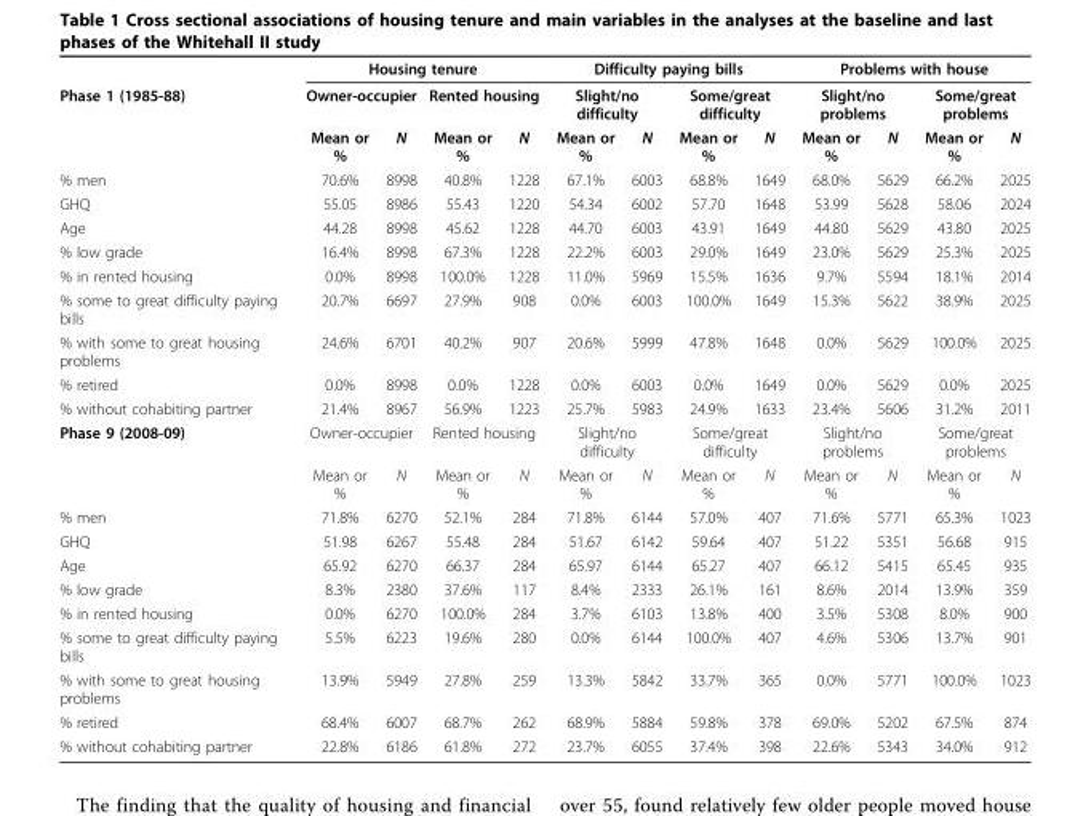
<table><thead><tr><td rowspan="3">Phase 1 (1985-88)</td><td colspan="4">Housing tenure</td><td colspan="4">Difficulty paying bills</td><td colspan="4">Problems with house</td></tr><tr><td colspan="2">Owner-occupier</td><td colspan="2">Rented housing</td><td colspan="2">Slight/no difficulty</td><td colspan="2">Some/great difficulty</td><td colspan="2">Slight/no problems</td><td colspan="2">Some/great problems</td></tr><tr><td>Mean or %</td><td>N</td><td>Mean or %</td><td>N</td><td>Mean or %</td><td>N</td><td>Mean or %</td><td>N</td><td>Mean or %</td><td>N</td><td>Mean or %</td><td>N</td></tr></thead><tbody><tr><td>% men</td><td>70.6%</td><td>8998</td><td>40.8%</td><td>1228</td><td>67.1%</td><td>6003</td><td>68.8%</td><td>1649</td><td>68.0%</td><td>5629</td><td>66.2%</td><td>2025</td></tr><tr><td>GHQ</td><td>55.05</td><td>8986</td><td>55.43</td><td>1220</td><td>54.34</td><td>6002</td><td>57.70</td><td>1648</td><td>53.99</td><td>5628</td><td>58.06</td><td>2024</td></tr><tr><td>Age</td><td>44.28</td><td>8998</td><td>45.62</td><td>1228</td><td>44.70</td><td>6003</td><td>43.91</td><td>1649</td><td>44.80</td><td>5629</td><td>43.80</td><td>2025</td></tr><tr><td>% low grade</td><td>16.4%</td><td>8998</td><td>67.3%</td><td>1228</td><td>22.2%</td><td>6003</td><td>29.0%</td><td>1649</td><td>23.0%</td><td>5629</td><td>25.3%</td><td>2025</td></tr><tr><td>% in rented housing</td><td>0.0%</td><td>8998</td><td>100.0%</td><td>1228</td><td>11.0%</td><td>5969</td><td>15.5%</td><td>1636</td><td>9.7%</td><td>5594</td><td>18.1%</td><td>2014</td></tr><tr><td>% some to great difficulty paying bills</td><td>20.7%</td><td>6697</td><td>27.9%</td><td>908</td><td>0.0%</td><td>6003</td><td>100.0%</td><td>1649</td><td>15.3%</td><td>5622</td><td>38.9%</td><td>2025</td></tr><tr><td>% with some to great housing problems</td><td>24.6%</td><td>6701</td><td>40.2%</td><td>907</td><td>20.6%</td><td>5999</td><td>47.8%</td><td>1648</td><td>0.0%</td><td>5629</td><td>100.0%</td><td>2025</td></tr><tr><td>% retired</td><td>0.0%</td><td>8998</td><td>0.0%</td><td>1228</td><td>0.0%</td><td>6003</td><td>0.0%</td><td>1649</td><td>0.0%</td><td>5629</td><td>0.0%</td><td>2025</td></tr><tr><td>% without cohabiting partner</td><td>21.4%</td><td>8967</td><td>56.9%</td><td>1223</td><td>25.7%</td><td>5983</td><td>24.9%</td><td>1633</td><td>23.4%</td><td>5606</td><td>31.2%</td><td>2011</td></tr><tr><td rowspan="2">Phase 9 (2008-09)</td><td colspan="2">Owner-occupier</td><td colspan="2">Rented housing</td><td colspan="2">Slight/no difficulty</td><td colspan="2">Some/great difficulty</td><td colspan="2">Slight/no problems</td><td colspan="2">Some/great problems</td></tr><tr><td>Mean or %</td><td>N</td><td>Mean or %</td><td>N</td><td>Mean or %</td><td>N</td><td>Mean or %</td><td>N</td><td>Mean or %</td><td>N</td><td>Mean or %</td><td>N</td></tr><tr><td>% men</td><td>71.8%</td><td>6270</td><td>52.1%</td><td>284</td><td>71.8%</td><td>6144</td><td>57.0%</td><td>407</td><td>71.6%</td><td>5771</td><td>65.3%</td><td>1023</td></tr><tr><td>GHQ</td><td>51.98</td><td>6267</td><td>55.48</td><td>284</td><td>51.67</td><td>6142</td><td>59.64</td><td>407</td><td>51.22</td><td>5351</td><td>56.68</td><td>915</td></tr><tr><td>Age</td><td>65.92</td><td>6270</td><td>66.37</td><td>284</td><td>65.97</td><td>6144</td><td>65.27</td><td>407</td><td>66.12</td><td>5415</td><td>65.45</td><td>935</td></tr><tr><td>% low grade</td><td>8.3%</td><td>2380</td><td>37.6%</td><td>117</td><td>8.4%</td><td>2333</td><td>26.1%</td><td>161</td><td>8.6%</td><td>2014</td><td>13.9%</td><td>359</td></tr><tr><td>% in rented housing</td><td>0.0%</td><td>6270</td><td>100.0%</td><td>284</td><td>3.7%</td><td>6103</td><td>13.8%</td><td>400</td><td>3.5%</td><td>5308</td><td>8.0%</td><td>900</td></tr><tr><td>% some to great difficulty paying bills</td><td>5.5%</td><td>6223</td><td>19.6%</td><td>280</td><td>0.0%</td><td>6144</td><td>100.0%</td><td>407</td><td>4.6%</td><td>5306</td><td>13.7%</td><td>901</td></tr><tr><td>% with some to great housing problems</td><td>13.9%</td><td>5949</td><td>27.8%</td><td>259</td><td>13.3%</td><td>5842</td><td>33.7%</td><td>365</td><td>0.0%</td><td>5771</td><td>100.0%</td><td>1023</td></tr><tr><td>% retired</td><td>68.4%</td><td>6007</td><td>68.7%</td><td>262</td><td>68.9%</td><td>5884</td><td>59.8%</td><td>378</td><td>69.0%</td><td>5202</td><td>67.5%</td><td>874</td></tr><tr><td>% without cohabiting partner</td><td>22.8%</td><td>6186</td><td>61.8%</td><td>272</td><td>23.7%</td><td>6055</td><td>37.4%</td><td>398</td><td>22.6%</td><td>5343</td><td>34.0%</td><td>912</td></tr></tbody></table>